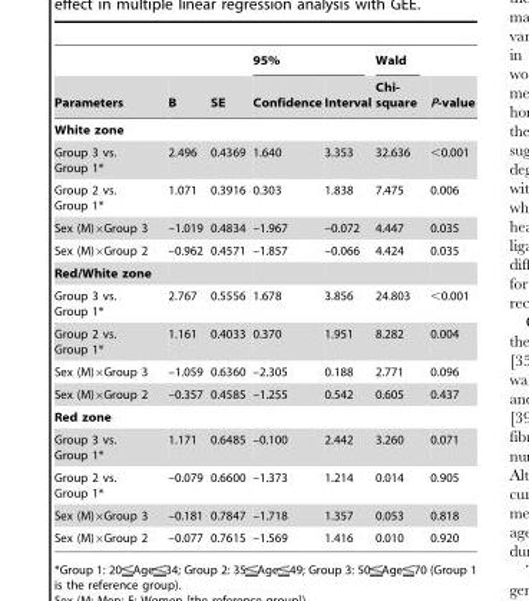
<table><thead><tr><td rowspan="2">Parameters</td><td rowspan="2">B</td><td rowspan="2">SE</td><td colspan="2">95%</td><td rowspan="2">Wald Chi- square</td><td rowspan="2">P-value</td></tr><tr><td>Confidence</td><td>Interval</td></tr></thead><tbody><tr><td colspan="7">White zone</td></tr><tr><td>Group 3 vs. Group 1*</td><td>2.496</td><td>0.4369</td><td>1.640</td><td>3.353</td><td>32.636</td><td>&lt;0.001</td></tr><tr><td>Group 2 vs. Group 1*</td><td>1.071</td><td>0.3916</td><td>0.303</td><td>1.838</td><td>7.475</td><td>0.006</td></tr><tr><td>Sex (M)×Group 3</td><td>–1.019</td><td>0.4834</td><td>–1.967</td><td>–0.072</td><td>4.447</td><td>0.035</td></tr><tr><td>Sex (M)×Group 2</td><td>–0.962</td><td>0.4571</td><td>–1.857</td><td>–0.066</td><td>4.424</td><td>0.035</td></tr><tr><td colspan="7">Red/White zone</td></tr><tr><td>Group 3 vs. Group 1*</td><td>2.767</td><td>0.5556</td><td>1.678</td><td>3.856</td><td>24.803</td><td>&lt;0.001</td></tr><tr><td>Group 2 vs. Group 1*</td><td>1.161</td><td>0.4033</td><td>0.370</td><td>1.951</td><td>8.282</td><td>0.004</td></tr><tr><td>Sex (M)×Group 3</td><td>–1.059</td><td>0.6360</td><td>–2.305</td><td>0.188</td><td>2.771</td><td>0.096</td></tr><tr><td>Sex (M)×Group 2</td><td>–0.357</td><td>0.4585</td><td>–1.255</td><td>0.542</td><td>0.605</td><td>0.437</td></tr><tr><td colspan="7">Red zone</td></tr><tr><td>Group 3 vs. Group 1*</td><td>1.171</td><td>0.6485</td><td>–0.100</td><td>2.442</td><td>3.260</td><td>0.071</td></tr><tr><td>Group 2 vs. Group 1*</td><td>–0.079</td><td>0.6600</td><td>–1.373</td><td>1.214</td><td>0.014</td><td>0.905</td></tr><tr><td>Sex (M)×Group 3</td><td>–0.181</td><td>0.7847</td><td>–1.718</td><td>1.357</td><td>0.053</td><td>0.818</td></tr><tr><td>Sex (M)×Group 2</td><td>–0.077</td><td>0.7615</td><td>–1.569</td><td>1.416</td><td>0.010</td><td>0.920</td></tr></tbody></table>